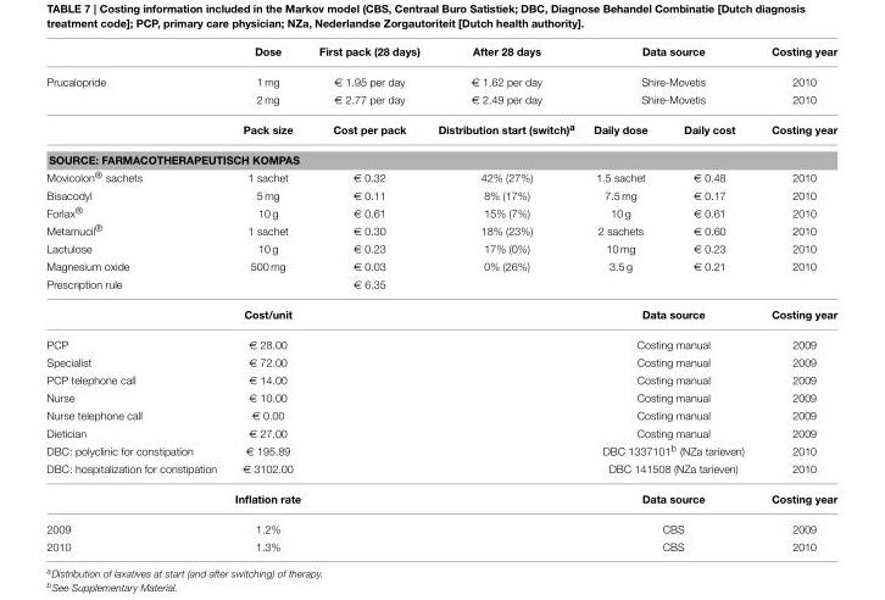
<table><thead><tr><td rowspan="4">Prucalopride</td><td rowspan="4">Dose 1 mg 2 mg Pack size</td><td rowspan="4">First pack (28 days) € 1.95 per day € 2.77 per day Cost per pack</td><td rowspan="4">After 28 days € 1.62 per day € 2.49 per day Distribution start (switch)<sup>a</sup></td><td rowspan="3" colspan="2">Data source Shire-Movetis Shire-Movetis</td><td rowspan="4">Costing year 2010 2010 Costing year</td></tr><tr></tr><tr></tr><tr><td>Daily dose</td><td>Daily cost</td></tr></thead><tbody><tr><td colspan="7">SOURCE: FARMACOTHERAPEUTISCH KOMPAS</td></tr><tr><td>Movicolon® sachets</td><td>1 sachet</td><td>€ 0.32</td><td>42% (27%)</td><td>1.5 sachet</td><td>€ 0.48</td><td>2010</td></tr><tr><td>Bisacodyl</td><td>5 mg</td><td>€ 0.11</td><td>8% (17%)</td><td>7.5 mg</td><td>€ 0.17</td><td>2010</td></tr><tr><td>Forlax®</td><td>10 g</td><td>€ 0.61</td><td>15% (7%)</td><td>10 g</td><td>€ 0.61</td><td>2010</td></tr><tr><td>Metamucil®</td><td>1 sachet</td><td>€ 0.30</td><td>18% (23%)</td><td>2 sachets</td><td>€ 0.60</td><td>2010</td></tr><tr><td>Lactulose</td><td>10 g</td><td>€ 0.23</td><td>17% (0%)</td><td>10 mg</td><td>€ 0.23</td><td>2010</td></tr><tr><td>Magnesium oxide</td><td>500 mg</td><td>€ 0.03</td><td>0% (26%)</td><td>3.5 g</td><td>€ 0.21</td><td>2010</td></tr><tr><td rowspan="2">Prescription rule</td><td></td><td>€ 6.35</td><td></td><td></td><td></td><td></td></tr><tr><td>Cost/unit</td><td></td><td></td><td colspan="2">Data source</td><td>Costing year</td></tr><tr><td>PCP</td><td>€ 28.00</td><td></td><td></td><td colspan="2">Costing manual</td><td>2009</td></tr><tr><td>Specialist</td><td>€ 72.00</td><td></td><td></td><td colspan="2">Costing manual</td><td>2009</td></tr><tr><td>PCP telephone call</td><td>€ 14.00</td><td></td><td></td><td colspan="2">Costing manual</td><td>2009</td></tr><tr><td>Nurse</td><td>€ 10.00</td><td></td><td></td><td colspan="2">Costing manual</td><td>2009</td></tr><tr><td>Nurse telephone call</td><td>€ 0.00</td><td></td><td></td><td colspan="2">Costing manual</td><td>2009</td></tr><tr><td>Dietician</td><td>€ 27.00</td><td></td><td></td><td colspan="2">Costing manual</td><td>2009</td></tr><tr><td>DBC: polyclinic for constipation</td><td>€ 195.89</td><td></td><td></td><td colspan="2">DBC 1337101<sup>b</sup> (NZa tarieven)</td><td>2010</td></tr><tr><td rowspan="2">DBC: hospitalization for constipation</td><td>€ 3102.00</td><td></td><td></td><td colspan="2">DBC 141508 (NZa tarieven)</td><td>2010</td></tr><tr><td>Inflation rate</td><td></td><td></td><td colspan="2">Data source</td><td>Costing year</td></tr><tr><td>2009</td><td>1.2%</td><td></td><td></td><td colspan="2">CBS</td><td>2009</td></tr><tr><td>2010</td><td>1.3%</td><td></td><td></td><td colspan="2">CBS</td><td>2010</td></tr></tbody></table>